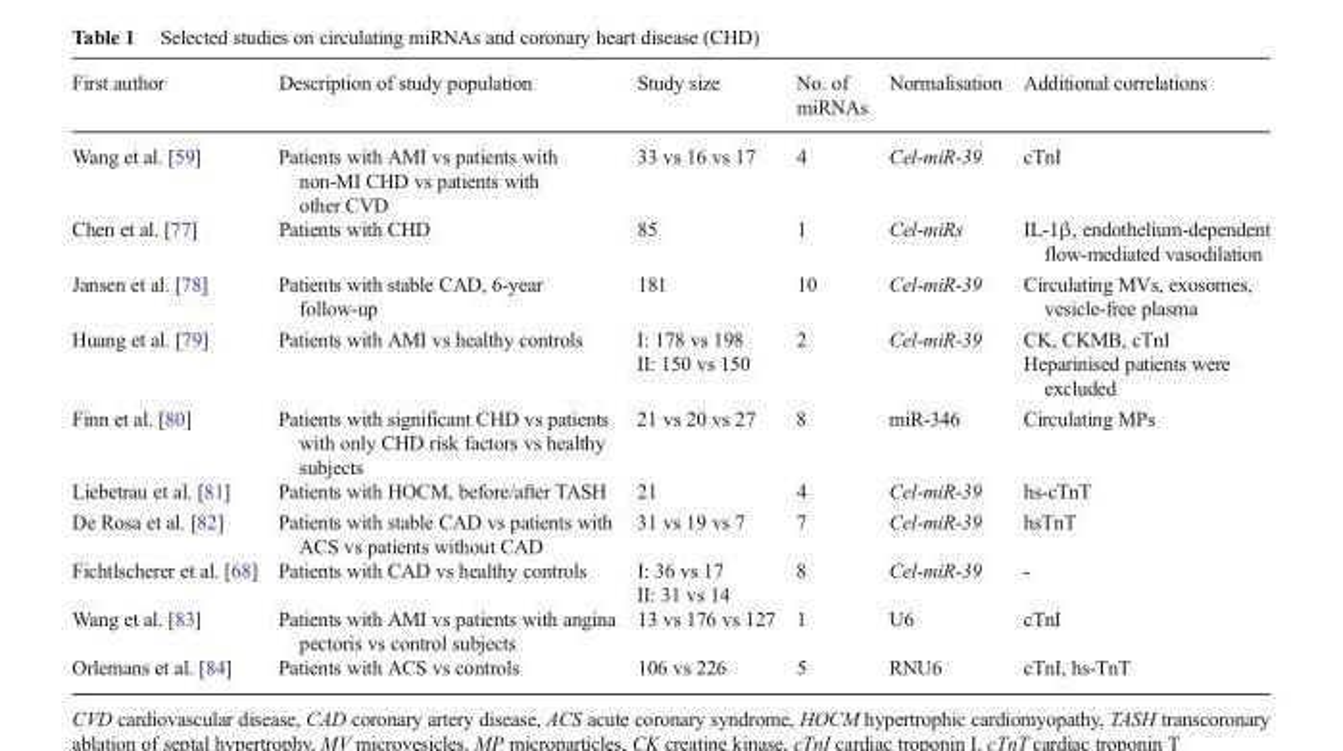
<table><thead><tr><td>First author</td><td>Description of study population</td><td>Study size</td><td>No. of miRNAs</td><td>Normalisation</td><td>Additional correlations</td></tr></thead><tbody><tr><td>Wang et al. [59]</td><td>Patients with AMI vs patients with non-MI CHD vs patients with other CVD</td><td>33 vs 16 vs 17</td><td>4</td><td>Cel-miR-39</td><td>cTnI</td></tr><tr><td>Chen et al. [77]</td><td>Patients with CHD</td><td>85</td><td>1</td><td>Cel-miRs</td><td>IL-1β, endothelium-dependent flow-mediated vasodilation</td></tr><tr><td>Jansen et al. [78]</td><td>Patients with stable CAD, 6-year follow-up</td><td>181</td><td>10</td><td>Cel-miR-39</td><td>Circulating MVs, exosomes, vesicle-free plasma</td></tr><tr><td>Huang et al. [79]</td><td>Patients with AMI vs healthy controls</td><td>I: 178 vs 198 II: 150 vs 150</td><td>2</td><td>Cel-miR-39</td><td>CK, CKMB, cTnI Heparinised patients were excluded</td></tr><tr><td>Finn et al. [80]</td><td>Patients with significant CHD vs patients with only CHD risk factors vs healthy subjects</td><td>21 vs 20 vs 27</td><td>8</td><td>miR-346</td><td>Circulating MPs</td></tr><tr><td>Liebetrau et al. [81]</td><td>Patients with HOCM, before/after TASH</td><td>21</td><td>4</td><td>Cel-miR-39</td><td>hs-cTnT</td></tr><tr><td>De Rosa et al. [82]</td><td>Patients with stable CAD vs patients with ACS vs patients without CAD</td><td>31 vs 19 vs 7</td><td>7</td><td>Cel-miR-39</td><td>hsTnT</td></tr><tr><td>Fichtlscherer et al. [68]</td><td>Patients with CAD vs healthy controls</td><td>I: 36 vs 17 II: 31 vs 14</td><td>8</td><td>Cel-miR-39</td><td>-</td></tr><tr><td>Wang et al. [83]</td><td>Patients with AMI vs patients with angina pectoris vs control subjects</td><td>13 vs 176 vs 127</td><td>1</td><td>U6</td><td>cTnI</td></tr><tr><td>Orlemans et al. [84]</td><td>Patients with ACS vs controls</td><td>106 vs 226</td><td>5</td><td>RNU6</td><td>cTnI, hs-TnT</td></tr></tbody></table>